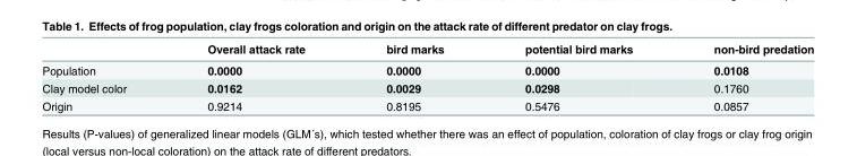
<table><thead><tr><td></td><td>Overall attack rate</td><td>bird marks</td><td>potential bird marks</td><td>non-bird predation</td></tr></thead><tbody><tr><td>Population</td><td>0.0000</td><td>0.0000</td><td>0.0000</td><td>0.0108</td></tr><tr><td>Clay model color</td><td>0.0162</td><td>0.0029</td><td>0.0298</td><td>0.1760</td></tr><tr><td>Origin</td><td>0.9214</td><td>0.8195</td><td>0.5476</td><td>0.0857</td></tr></tbody></table>